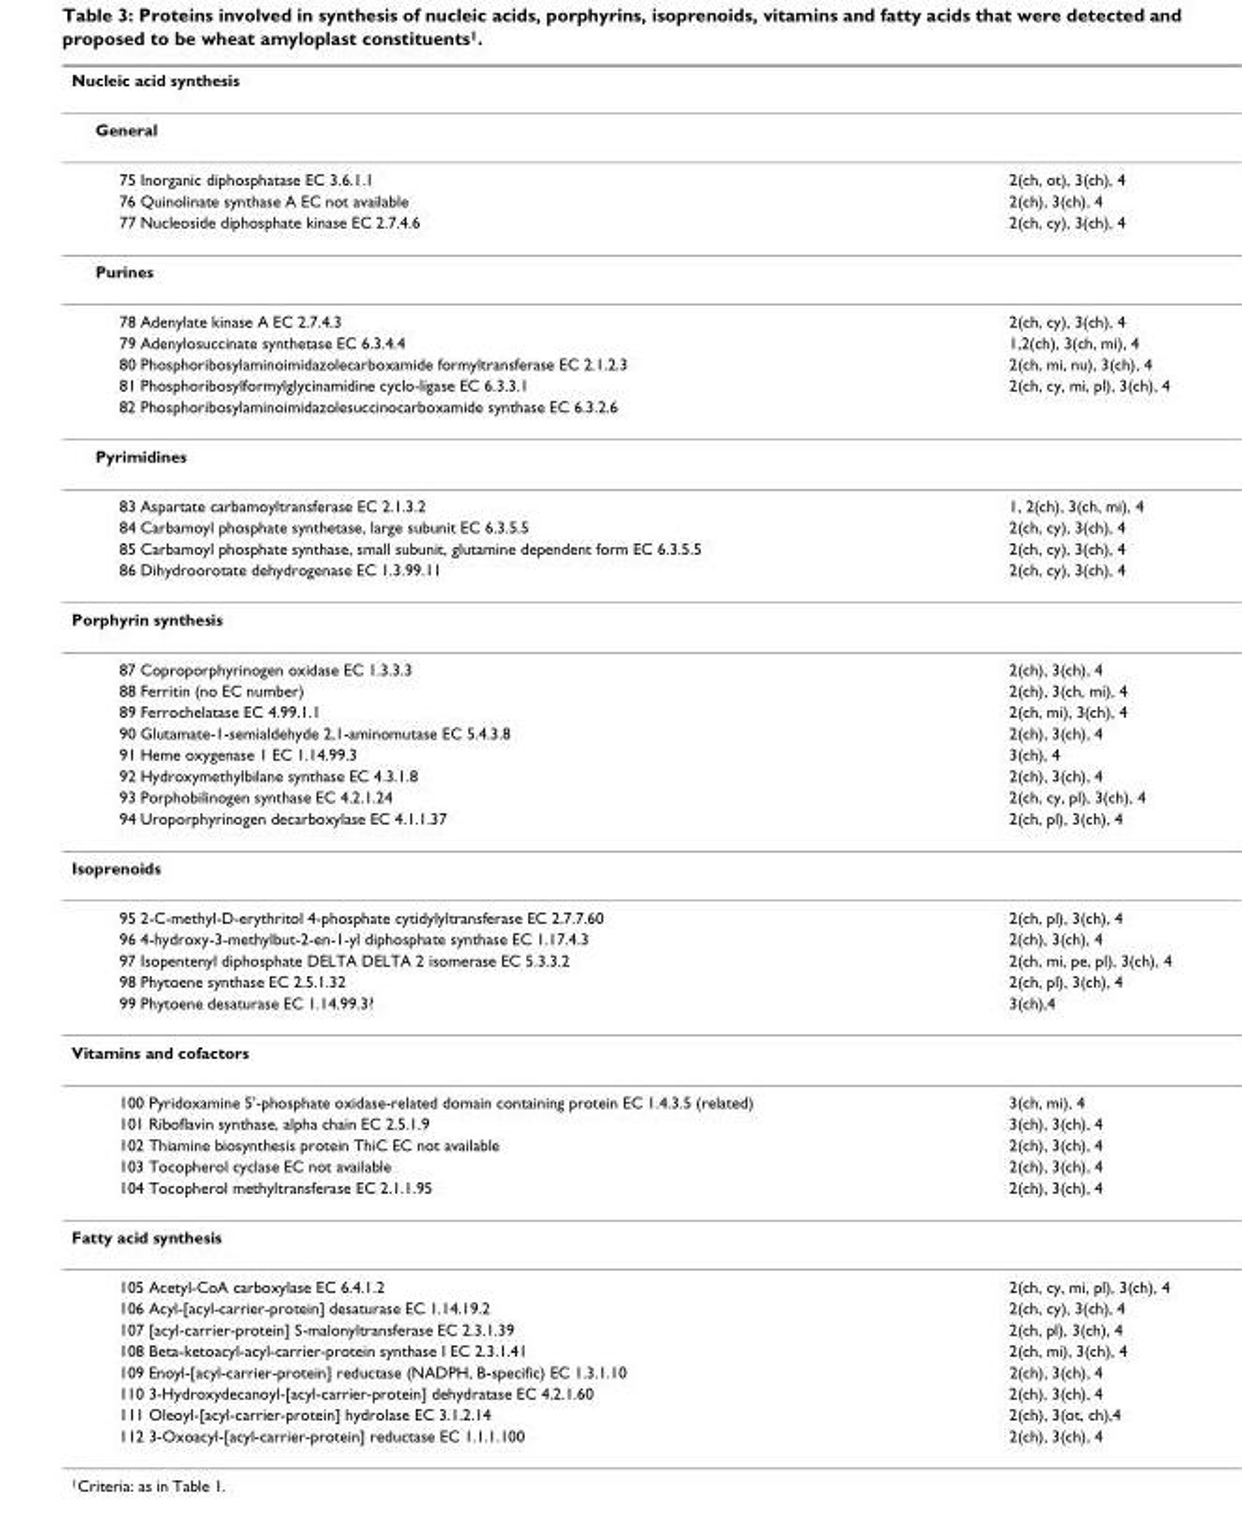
<table><thead><tr><td>Nucleic acid synthesis</td><td></td></tr></thead><tbody><tr><td colspan="2">General</td></tr><tr><td>75 Inorganic diphosphatase EC 3.6.1.1</td><td>2(ch, ot), 3(ch), 4</td></tr><tr><td>76 Quinolinate synthase A EC not available</td><td>2(ch), 3(ch), 4</td></tr><tr><td>77 Nucleoside diphosphate kinase EC 2.7.4.6</td><td>2(ch, cy), 3(ch), 4</td></tr><tr><td colspan="2">Purines</td></tr><tr><td>78 Adenylate kinase A EC 2.7.4.3</td><td>2(ch, cy), 3(ch), 4</td></tr><tr><td>79 Adenylosuccinate synthetase EC 6.3.4.4</td><td>1,2(ch), 3(ch, mi), 4</td></tr><tr><td>80 Phosphoribosylaminoimidazolecarboxamide formyltransferase EC 2.1.2.3</td><td>2(ch, mi, nu), 3(ch), 4</td></tr><tr><td>81 Phosphoribosylformylglycinamidine cyclo-ligase EC 6.3.3.1</td><td>2(ch, cy, mi, pl), 3(ch), 4</td></tr><tr><td colspan="2">82 Phosphoribosylaminoimidazolesuccinocarboxamide synthase EC 6.3.2.6</td></tr><tr><td colspan="2">Pyrimidines</td></tr><tr><td>83 Aspartate carbamoyltransferase EC 2.1.3.2</td><td>1, 2(ch), 3(ch, mi), 4</td></tr><tr><td>84 Carbamoyl phosphate synthetase, large subunit EC 6.3.5.5</td><td>2(ch, cy), 3(ch), 4</td></tr><tr><td>85 Carbamoyl phosphate synthase, small subunit, glutamine dependent form EC 6.3.5.5</td><td>2(ch, cy), 3(ch), 4</td></tr><tr><td>86 Dihydroorotate dehydrogenase EC 1.3.99.11</td><td>2(ch, cy), 3(ch), 4</td></tr><tr><td colspan="2">Porphyrin synthesis</td></tr><tr><td>87 Coproporphyrinogen oxidase EC 1.3.3.3</td><td>2(ch), 3(ch), 4</td></tr><tr><td>88 Ferritin (no EC number)</td><td>2(ch), 3(ch, mi), 4</td></tr><tr><td>89 Ferrochelatase EC 4.99.1.1</td><td>2(ch, mi), 3(ch), 4</td></tr><tr><td>90 Glutamate-1-semialdehyde 2,1-aminomutase EC 5.4.3.8</td><td>2(ch), 3(ch), 4</td></tr><tr><td>91 Heme oxygenase 1 EC 1.14.99.3</td><td>3(ch), 4</td></tr><tr><td>92 Hydroxymethylbilane synthase EC 4.3.1.8</td><td>2(ch), 3(ch), 4</td></tr><tr><td>93 Porphobilinogen synthase EC 4.2.1.24</td><td>2(ch, cy, pl), 3(ch), 4</td></tr><tr><td>94 Uroporphyrinogen decarboxylase EC 4.1.1.37</td><td>2(ch, pl), 3(ch), 4</td></tr><tr><td colspan="2">Isoprenoids</td></tr><tr><td>95 2-C-methyl-D-erythritol 4-phosphate cytidylyltransferase EC 2.7.7.60</td><td>2(ch, pl), 3(ch), 4</td></tr><tr><td>96 4-hydroxy-3-methylbut-2-en-1-yl diphosphate synthase EC 1.17.4.3</td><td>2(ch), 3(ch), 4</td></tr><tr><td>97 Isopentenyl diphosphate DELTA DELTA 2 isomerase EC 5.3.3.2</td><td>2(ch, mi, pe, pl), 3(ch), 4</td></tr><tr><td>98 Phytoene synthase EC 2.5.1.32</td><td>2(ch, pl), 3(ch), 4</td></tr><tr><td>99 Phytoene desaturase EC 1.14.99.3?</td><td>3(ch),4</td></tr><tr><td colspan="2">Vitamins and cofactors</td></tr><tr><td>100 Pyridoxamine 5&#x27;-phosphate oxidase-related domain containing protein EC 1.4.3.5 (related)</td><td>3(ch, mi), 4</td></tr><tr><td>101 Riboflavin synthase, alpha chain EC 2.5.1.9</td><td>3(ch), 3(ch), 4</td></tr><tr><td>102 Thiamine biosynthesis protein ThiC EC not available</td><td>2(ch), 3(ch), 4</td></tr><tr><td>103 Tocopherol cyclase EC not available</td><td>2(ch), 3(ch), 4</td></tr><tr><td>104 Tocopherol methyltransferase EC 2.1.1.95</td><td>2(ch), 3(ch), 4</td></tr><tr><td colspan="2">Fatty acid synthesis</td></tr><tr><td>105 Acetyl-CoA carboxylase EC 6.4.1.2</td><td>2(ch, cy, mi, pl), 3(ch), 4</td></tr><tr><td>106 Acyl-[acyl-carrier-protein] desaturase EC 1.14.19.2</td><td>2(ch, cy), 3(ch), 4</td></tr><tr><td>107 [acyl-carrier-protein] S-malonyltransferase EC 2.3.1.39</td><td>2(ch, pl), 3(ch), 4</td></tr><tr><td>108 Beta-ketoacyl-acyl-carrier-protein synthase I EC 2.3.1.41</td><td>2(ch, mi), 3(ch), 4</td></tr><tr><td>109 Enoyl-[acyl-carrier-protein] reductase (NADPH, B-specific) EC 1.3.1.10</td><td>2(ch), 3(ch), 4</td></tr><tr><td>110 3-Hydroxydecanoyl-[acyl-carrier-protein] dehydratase EC 4.2.1.60</td><td>2(ch), 3(ch), 4</td></tr><tr><td>111 Oleoyl-[acyl-carrier-protein] hydrolase EC 3.1.2.14</td><td>2(ch), 3(ot, ch),4</td></tr><tr><td>112 3-Oxoacyl-[acyl-carrier-protein] reductase EC 1.1.1.100</td><td>2(ch), 3(ch), 4</td></tr></tbody></table>